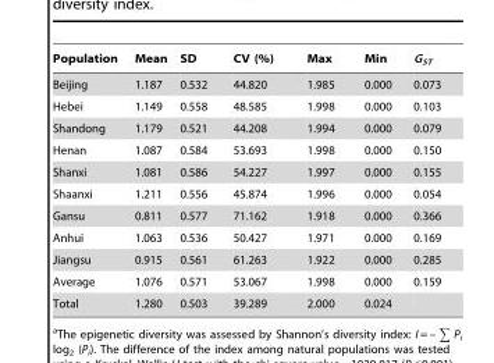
<table><thead><tr><td>Population</td><td>Mean</td><td>SD</td><td>CV (%)</td><td>Max</td><td>Min</td><td>G<sub>ST</sub></td></tr></thead><tbody><tr><td>Beijing</td><td>1.187</td><td>0.532</td><td>44.820</td><td>1.985</td><td>0.000</td><td>0.073</td></tr><tr><td>Hebei</td><td>1.149</td><td>0.558</td><td>48.585</td><td>1.998</td><td>0.000</td><td>0.103</td></tr><tr><td>Shandong</td><td>1.179</td><td>0.521</td><td>44.208</td><td>1.994</td><td>0.000</td><td>0.079</td></tr><tr><td>Henan</td><td>1.087</td><td>0.584</td><td>53.693</td><td>1.998</td><td>0.000</td><td>0.150</td></tr><tr><td>Shanxi</td><td>1.081</td><td>0.586</td><td>54.227</td><td>1.997</td><td>0.000</td><td>0.155</td></tr><tr><td>Shaanxi</td><td>1.211</td><td>0.556</td><td>45.874</td><td>1.996</td><td>0.000</td><td>0.054</td></tr><tr><td>Gansu</td><td>0.811</td><td>0.577</td><td>71.162</td><td>1.918</td><td>0.000</td><td>0.366</td></tr><tr><td>Anhui</td><td>1.063</td><td>0.536</td><td>50.427</td><td>1.971</td><td>0.000</td><td>0.169</td></tr><tr><td>Jiangsu</td><td>0.915</td><td>0.561</td><td>61.263</td><td>1.922</td><td>0.000</td><td>0.285</td></tr><tr><td>Average</td><td>1.076</td><td>0.571</td><td>53.067</td><td>1.998</td><td>0.000</td><td>0.159</td></tr><tr><td>Total</td><td>1.280</td><td>0.503</td><td>39.289</td><td>2.000</td><td>0.024</td><td></td></tr></tbody></table>